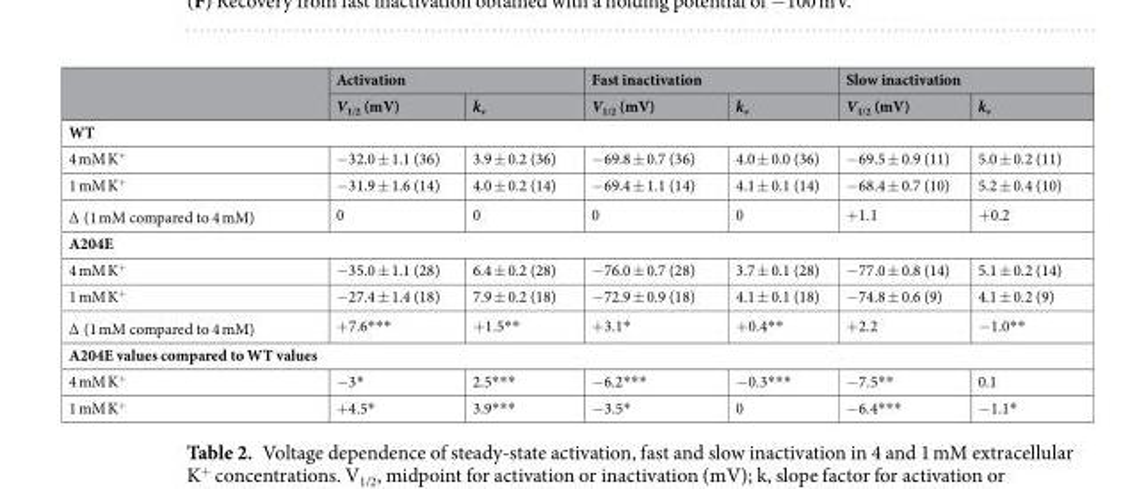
<table><thead><tr><td rowspan="2"></td><td colspan="2">Activation</td><td colspan="2">Fast inactivation</td><td colspan="2">Slow inactivation</td></tr><tr><td>V<sub>1/2</sub> (mV)</td><td>k<sub>v</sub></td><td>V<sub>1/2</sub> (mV)</td><td>k<sub>v</sub></td><td>V<sub>1/2</sub> (mV)</td><td>k<sub>v</sub></td></tr></thead><tbody><tr><td colspan="7">WT</td></tr><tr><td>4 mM K<sup>+</sup></td><td>−32.0 ± 1.1 (36)</td><td>3.9 ± 0.2 (36)</td><td>−69.8 ± 0.7 (36)</td><td>4.0 ± 0.0 (36)</td><td>−69.5 ± 0.9 (11)</td><td>5.0 ± 0.2 (11)</td></tr><tr><td>1 mM K<sup>+</sup></td><td>−31.9 ± 1.6 (14)</td><td>4.0 ± 0.2 (14)</td><td>−69.4 ± 1.1 (14)</td><td>4.1 ± 0.1 (14)</td><td>−68.4 ± 0.7 (10)</td><td>5.2 ± 0.4 (10)</td></tr><tr><td>Δ (1 mM compared to 4 mM)</td><td>0</td><td>0</td><td>0</td><td>0</td><td>+1.1</td><td>+0.2</td></tr><tr><td colspan="7">A204E</td></tr><tr><td>4 mM K<sup>+</sup></td><td>−35.0 ± 1.1 (28)</td><td>6.4 ± 0.2 (28)</td><td>−76.0 ± 0.7 (28)</td><td>3.7 ± 0.1 (28)</td><td>−77.0 ± 0.8 (14)</td><td>5.1 ± 0.2 (14)</td></tr><tr><td>1 mM K<sup>+</sup></td><td>−27.4 ± 1.4 (18)</td><td>7.9 ± 0.2 (18)</td><td>−72.9 ± 0.9 (18)</td><td>4.1 ± 0.1 (18)</td><td>−74.8 ± 0.6 (9)</td><td>4.1 ± 0.2 (9)</td></tr><tr><td>Δ (1 mM compared to 4 mM)</td><td>+7.6***</td><td>+1.5**</td><td>+3.1*</td><td>+0.4**</td><td>+2.2</td><td>−1.0**</td></tr><tr><td colspan="7">A204E values compared to WT values</td></tr><tr><td>4 mM K<sup>+</sup></td><td>−3*</td><td>2.5***</td><td>−6.2***</td><td>−0.3***</td><td>−7.5**</td><td>0.1</td></tr><tr><td>1 mM K<sup>+</sup></td><td>+4.5*</td><td>3.9***</td><td>−3.5*</td><td>0</td><td>−6.4***</td><td>−1.1*</td></tr></tbody></table>